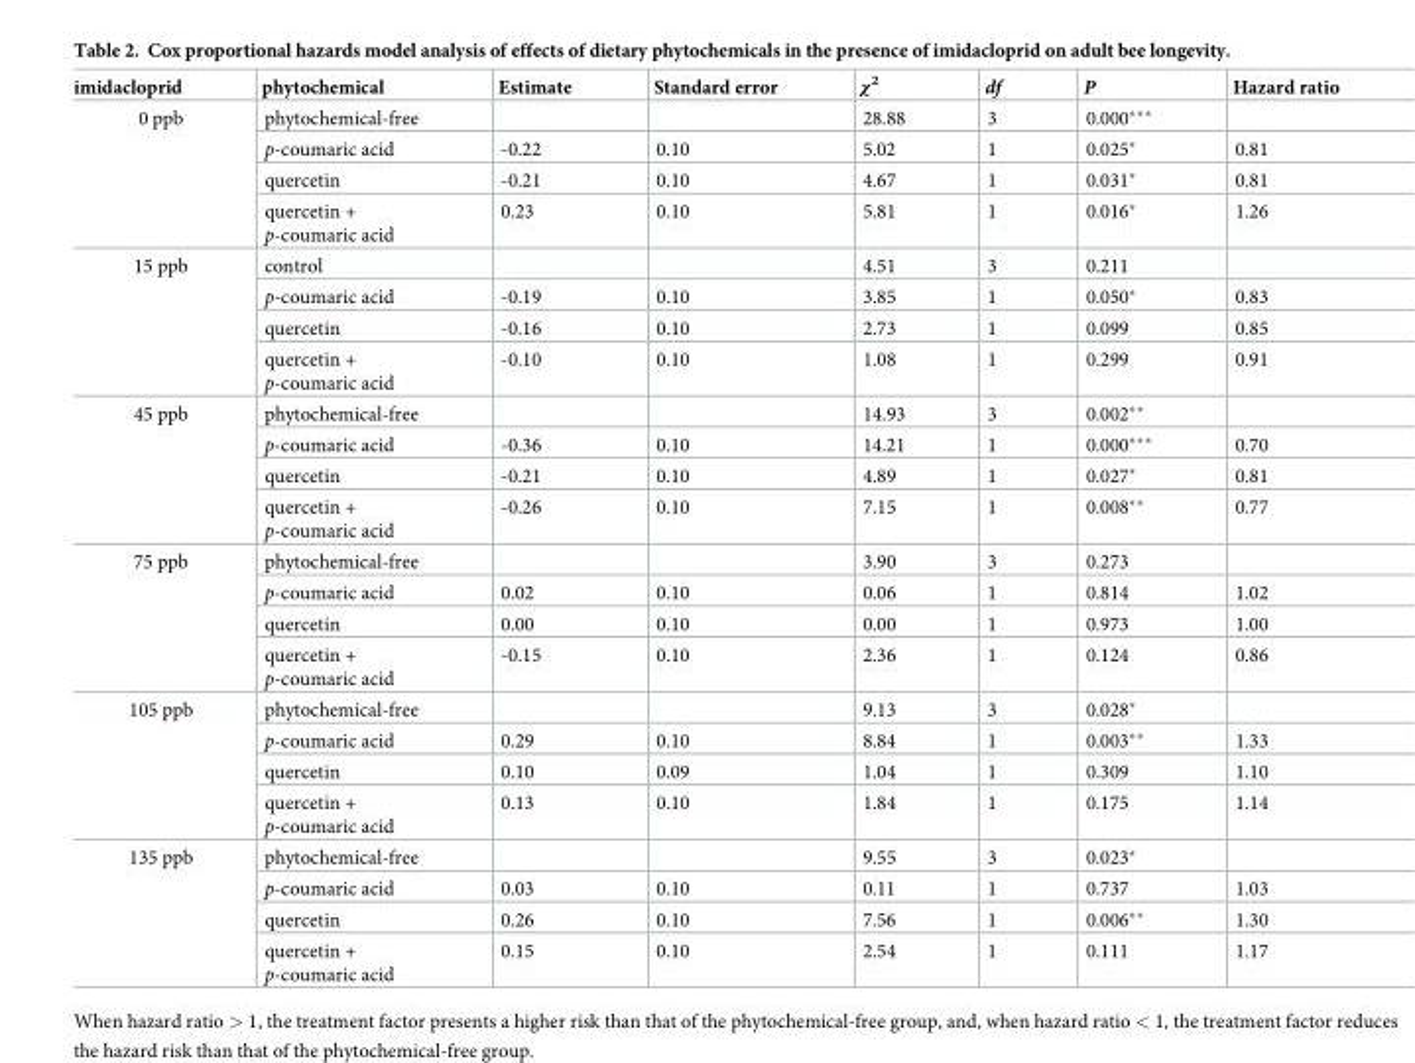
<table><thead><tr><td>imidacloprid</td><td>phytochemical</td><td>Estimate</td><td>Standard error</td><td>χ<sup>2</sup></td><td>df</td><td>P</td><td>Hazard ratio</td></tr></thead><tbody><tr><td rowspan="4">0 ppb</td><td>phytochemical-free</td><td></td><td></td><td>28.88</td><td>3</td><td>0.000***</td><td></td></tr><tr><td>p-coumaric acid</td><td>-0.22</td><td>0.10</td><td>5.02</td><td>1</td><td>0.025*</td><td>0.81</td></tr><tr><td>quercetin</td><td>-0.21</td><td>0.10</td><td>4.67</td><td>1</td><td>0.031*</td><td>0.81</td></tr><tr><td>quercetin + p-coumaric acid</td><td>0.23</td><td>0.10</td><td>5.81</td><td>1</td><td>0.016*</td><td>1.26</td></tr><tr><td rowspan="4">15 ppb</td><td>control</td><td></td><td></td><td>4.51</td><td>3</td><td>0.211</td><td></td></tr><tr><td>p-coumaric acid</td><td>-0.19</td><td>0.10</td><td>3.85</td><td>1</td><td>0.050*</td><td>0.83</td></tr><tr><td>quercetin</td><td>-0.16</td><td>0.10</td><td>2.73</td><td>1</td><td>0.099</td><td>0.85</td></tr><tr><td>quercetin + p-coumaric acid</td><td>-0.10</td><td>0.10</td><td>1.08</td><td>1</td><td>0.299</td><td>0.91</td></tr><tr><td rowspan="4">45 ppb</td><td>phytochemical-free</td><td></td><td></td><td>14.93</td><td>3</td><td>0.002**</td><td></td></tr><tr><td>p-coumaric acid</td><td>-0.36</td><td>0.10</td><td>14.21</td><td>1</td><td>0.000***</td><td>0.70</td></tr><tr><td>quercetin</td><td>-0.21</td><td>0.10</td><td>4.89</td><td>1</td><td>0.027*</td><td>0.81</td></tr><tr><td>quercetin + p-coumaric acid</td><td>-0.26</td><td>0.10</td><td>7.15</td><td>1</td><td>0.008**</td><td>0.77</td></tr><tr><td rowspan="4">75 ppb</td><td>phytochemical-free</td><td></td><td></td><td>3.90</td><td>3</td><td>0.273</td><td></td></tr><tr><td>p-coumaric acid</td><td>0.02</td><td>0.10</td><td>0.06</td><td>1</td><td>0.814</td><td>1.02</td></tr><tr><td>quercetin</td><td>0.00</td><td>0.10</td><td>0.00</td><td>1</td><td>0.973</td><td>1.00</td></tr><tr><td>quercetin + p-coumaric acid</td><td>-0.15</td><td>0.10</td><td>2.36</td><td>1</td><td>0.124</td><td>0.86</td></tr><tr><td rowspan="4">105 ppb</td><td>phytochemical-free</td><td></td><td></td><td>9.13</td><td>3</td><td>0.028*</td><td></td></tr><tr><td>p-coumaric acid</td><td>0.29</td><td>0.10</td><td>8.84</td><td>1</td><td>0.003**</td><td>1.33</td></tr><tr><td>quercetin</td><td>0.10</td><td>0.09</td><td>1.04</td><td>1</td><td>0.309</td><td>1.10</td></tr><tr><td>quercetin + p-coumaric acid</td><td>0.13</td><td>0.10</td><td>1.84</td><td>1</td><td>0.175</td><td>1.14</td></tr><tr><td rowspan="4">135 ppb</td><td>phytochemical-free</td><td></td><td></td><td>9.55</td><td>3</td><td>0.023*</td><td></td></tr><tr><td>p-coumaric acid</td><td>0.03</td><td>0.10</td><td>0.11</td><td>1</td><td>0.737</td><td>1.03</td></tr><tr><td>quercetin</td><td>0.26</td><td>0.10</td><td>7.56</td><td>1</td><td>0.006**</td><td>1.30</td></tr><tr><td>quercetin + p-coumaric acid</td><td>0.15</td><td>0.10</td><td>2.54</td><td>1</td><td>0.111</td><td>1.17</td></tr></tbody></table>